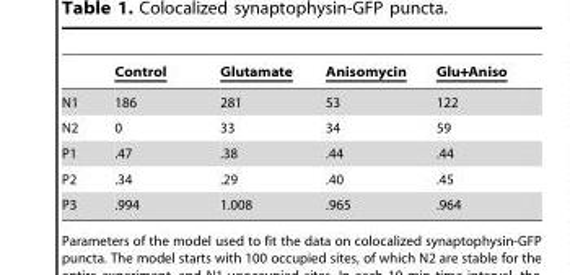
<table><thead><tr><td></td><td>Control</td><td>Glutamate</td><td>Anisomycin</td><td>Glu+Aniso</td></tr></thead><tbody><tr><td>N1</td><td>186</td><td>281</td><td>53</td><td>122</td></tr><tr><td>N2</td><td>0</td><td>33</td><td>34</td><td>59</td></tr><tr><td>P1</td><td>.47</td><td>.38</td><td>.44</td><td>.44</td></tr><tr><td>P2</td><td>.34</td><td>.29</td><td>.40</td><td>.45</td></tr><tr><td>P3</td><td>.994</td><td>1.008</td><td>.965</td><td>.964</td></tr></tbody></table>